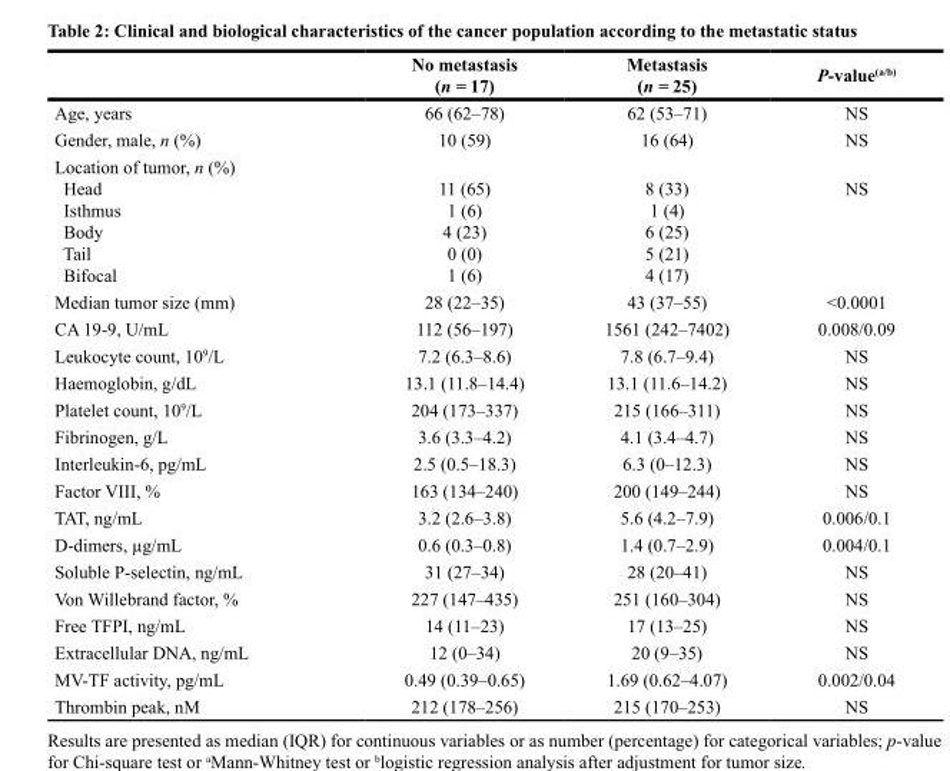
<table><thead><tr><td></td><td>No metastasis (n = 17)</td><td>Metastasis (n = 25)</td><td>P-value<sup>(a/b)</sup></td></tr></thead><tbody><tr><td>Age, years</td><td>66 (62–78)</td><td>62 (53–71)</td><td>NS</td></tr><tr><td>Gender, male, n (%)</td><td>10 (59)</td><td>16 (64)</td><td>NS</td></tr><tr><td>Location of tumor, n (%) Head Isthmus Body Tail Bifocal</td><td>11 (65) 1 (6) 4 (23) 0 (0) 1 (6)</td><td>8 (33) 1 (4) 6 (25) 5 (21) 4 (17)</td><td>NS</td></tr><tr><td>Median tumor size (mm)</td><td>28 (22–35)</td><td>43 (37–55)</td><td>&lt;0.0001</td></tr><tr><td>CA 19-9, U/mL</td><td>112 (56–197)</td><td>1561 (242–7402)</td><td>0.008/0.09</td></tr><tr><td>Leukocyte count, 10<sup>9</sup>/L</td><td>7.2 (6.3–8.6)</td><td>7.8 (6.7–9.4)</td><td>NS</td></tr><tr><td>Haemoglobin, g/dL</td><td>13.1 (11.8–14.4)</td><td>13.1 (11.6–14.2)</td><td>NS</td></tr><tr><td>Platelet count, 10<sup>9</sup>/L</td><td>204 (173–337)</td><td>215 (166–311)</td><td>NS</td></tr><tr><td>Fibrinogen, g/L</td><td>3.6 (3.3–4.2)</td><td>4.1 (3.4–4.7)</td><td>NS</td></tr><tr><td>Interleukin-6, pg/mL</td><td>2.5 (0.5–18.3)</td><td>6.3 (0–12.3)</td><td>NS</td></tr><tr><td>Factor VIII, %</td><td>163 (134–240)</td><td>200 (149–244)</td><td>NS</td></tr><tr><td>TAT, ng/mL</td><td>3.2 (2.6–3.8)</td><td>5.6 (4.2–7.9)</td><td>0.006/0.1</td></tr><tr><td>D-dimers, µg/mL</td><td>0.6 (0.3–0.8)</td><td>1.4 (0.7–2.9)</td><td>0.004/0.1</td></tr><tr><td>Soluble P-selectin, ng/mL</td><td>31 (27–34)</td><td>28 (20–41)</td><td>NS</td></tr><tr><td>Von Willebrand factor, %</td><td>227 (147–435)</td><td>251 (160–304)</td><td>NS</td></tr><tr><td>Free TFPI, ng/mL</td><td>14 (11–23)</td><td>17 (13–25)</td><td>NS</td></tr><tr><td>Extracellular DNA, ng/mL</td><td>12 (0–34)</td><td>20 (9–35)</td><td>NS</td></tr><tr><td>MV-TF activity, pg/mL</td><td>0.49 (0.39–0.65)</td><td>1.69 (0.62–4.07)</td><td>0.002/0.04</td></tr><tr><td>Thrombin peak, nM</td><td>212 (178–256)</td><td>215 (170–253)</td><td>NS</td></tr></tbody></table>